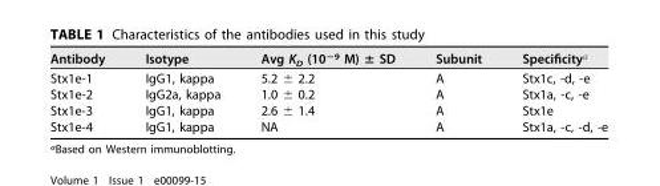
<table><thead><tr><td>Antibody</td><td>Isotype</td><td>Avg K<sub>D</sub> (10<sup>−9</sup> M) ± SD</td><td>Subunit</td><td>Specificity<sup>a</sup></td></tr></thead><tbody><tr><td>Stx1e-1</td><td>IgG1, kappa</td><td>5.2 ± 2.2</td><td>A</td><td>Stx1c, -d, -e</td></tr><tr><td>Stx1e-2</td><td>IgG2a, kappa</td><td>1.0 ± 0.2</td><td>A</td><td>Stx1a, -c, -e</td></tr><tr><td>Stx1e-3</td><td>IgG1, kappa</td><td>2.6 ± 1.4</td><td>A</td><td>Stx1e</td></tr><tr><td>Stx1e-4</td><td>IgG1, kappa</td><td>NA</td><td>A</td><td>Stx1a, -c, -d, -e</td></tr></tbody></table>